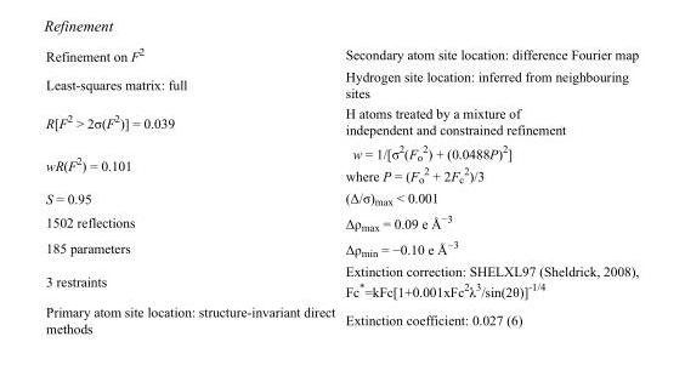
<table><tbody><tr><td>Refinement on F<sup>2</sup></td><td>Secondary atom site location: difference Fourier map</td></tr><tr><td>Least-squares matrix: full</td><td>Hydrogen site location: inferred from neighbouring sites</td></tr><tr><td>R[F<sup>2</sup> &gt; 2σ(F<sup>2</sup>)] = 0.039</td><td>H atoms treated by a mixture of independent and constrained refinement</td></tr><tr><td>wR(F<sup>2</sup>) = 0.101</td><td>w = 1/[σ<sup>2</sup>(F<sub>o</sub> <sup>2</sup>) + (0.0488P)<sup>2</sup>] where P = (F<sub>o</sub> <sup>2</sup> + 2F<sub>c</sub> <sup>2</sup>)/3</td></tr><tr><td>S = 0.95</td><td>(Δ/σ)<sub>max</sub> &lt; 0.001</td></tr><tr><td>1502 reflections</td><td>Δρ<sub>max</sub> = 0.09 e Å<sup>−3</sup></td></tr><tr><td>185 parameters</td><td>Δρ<sub>min</sub> = −0.10 e Å<sup>−3</sup></td></tr><tr><td>3 restraints</td><td>Extinction correction: SHELXL97 (Sheldrick, 2008), Fc*=kFc[1+0.001xFc<sup>2</sup>λ<sup>3</sup>/sin(2θ)]<sup>-1/4</sup></td></tr><tr><td>Primary atom site location: structure-invariant direct methods</td><td>Extinction coefficient: 0.027 (6)</td></tr></tbody></table>